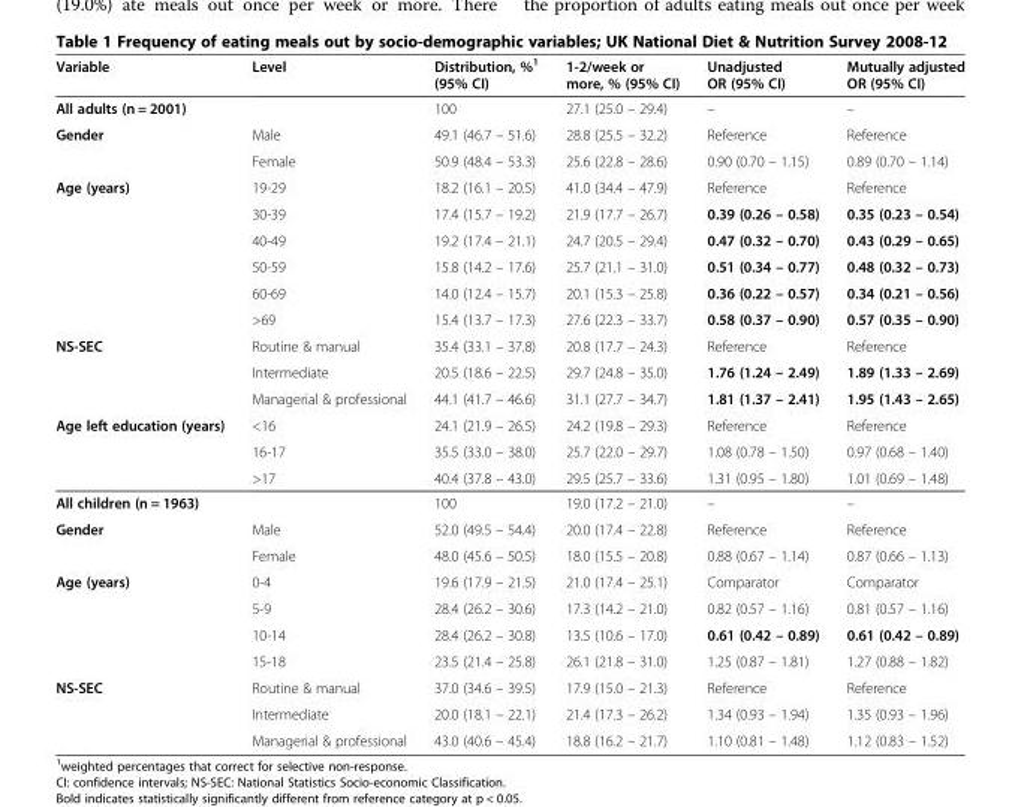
<table><thead><tr><td>Variable</td><td>Level</td><td>Distribution, %<sup>1</sup> (95% CI)</td><td>1-2/week or more, % (95% CI)</td><td>Unadjusted OR (95% CI)</td><td>Mutually adjusted OR (95% CI)</td></tr></thead><tbody><tr><td colspan="2">All adults (n = 2001)</td><td>100</td><td>27.1 (25.0 – 29.4)</td><td>–</td><td>–</td></tr><tr><td rowspan="2">Gender</td><td>Male</td><td>49.1 (46.7 – 51.6)</td><td>28.8 (25.5 – 32.2)</td><td>Reference</td><td>Reference</td></tr><tr><td>Female</td><td>50.9 (48.4 – 53.3)</td><td>25.6 (22.8 – 28.6)</td><td>0.90 (0.70 – 1.15)</td><td>0.89 (0.70 – 1.14)</td></tr><tr><td rowspan="6">Age (years)</td><td>19-29</td><td>18.2 (16.1 – 20.5)</td><td>41.0 (34.4 – 47.9)</td><td>Reference</td><td>Reference</td></tr><tr><td>30-39</td><td>17.4 (15.7 – 19.2)</td><td>21.9 (17.7 – 26.7)</td><td>0.39 (0.26 – 0.58)</td><td>0.35 (0.23 – 0.54)</td></tr><tr><td>40-49</td><td>19.2 (17.4 – 21.1)</td><td>24.7 (20.5 – 29.4)</td><td>0.47 (0.32 – 0.70)</td><td>0.43 (0.29 – 0.65)</td></tr><tr><td>50-59</td><td>15.8 (14.2 – 17.6)</td><td>25.7 (21.1 – 31.0)</td><td>0.51 (0.34 – 0.77)</td><td>0.48 (0.32 – 0.73)</td></tr><tr><td>60-69</td><td>14.0 (12.4 – 15.7)</td><td>20.1 (15.3 – 25.8)</td><td>0.36 (0.22 – 0.57)</td><td>0.34 (0.21 – 0.56)</td></tr><tr><td>&gt;69</td><td>15.4 (13.7 – 17.3)</td><td>27.6 (22.3 – 33.7)</td><td>0.58 (0.37 – 0.90)</td><td>0.57 (0.35 – 0.90)</td></tr><tr><td rowspan="3">NS-SEC</td><td>Routine &amp; manual</td><td>35.4 (33.1 – 37.8)</td><td>20.8 (17.7 – 24.3)</td><td>Reference</td><td>Reference</td></tr><tr><td>Intermediate</td><td>20.5 (18.6 – 22.5)</td><td>29.7 (24.8 – 35.0)</td><td>1.76 (1.24 – 2.49)</td><td>1.89 (1.33 – 2.69)</td></tr><tr><td>Managerial &amp; professional</td><td>44.1 (41.7 – 46.6)</td><td>31.1 (27.7 – 34.7)</td><td>1.81 (1.37 – 2.41)</td><td>1.95 (1.43 – 2.65)</td></tr><tr><td rowspan="3">Age left education (years)</td><td>&lt;16</td><td>24.1 (21.9 – 26.5)</td><td>24.2 (19.8 – 29.3)</td><td>Reference</td><td>Reference</td></tr><tr><td>16-17</td><td>35.5 (33.0 – 38.0)</td><td>25.7 (22.0 – 29.7)</td><td>1.08 (0.78 – 1.50)</td><td>0.97 (0.68 – 1.40)</td></tr><tr><td>&gt;17</td><td>40.4 (37.8 – 43.0)</td><td>29.5 (25.7 – 33.6)</td><td>1.31 (0.95 – 1.80)</td><td>1.01 (0.69 – 1.48)</td></tr><tr><td colspan="2">All children (n = 1963)</td><td>100</td><td>19.0 (17.2 – 21.0)</td><td>–</td><td>–</td></tr><tr><td rowspan="2">Gender</td><td>Male</td><td>52.0 (49.5 – 54.4)</td><td>20.0 (17.4 – 22.8)</td><td>Reference</td><td>Reference</td></tr><tr><td>Female</td><td>48.0 (45.6 – 50.5)</td><td>18.0 (15.5 – 20.8)</td><td>0.88 (0.67 – 1.14)</td><td>0.87 (0.66 – 1.13)</td></tr><tr><td rowspan="4">Age (years)</td><td>0-4</td><td>19.6 (17.9 – 21.5)</td><td>21.0 (17.4 – 25.1)</td><td>Comparator</td><td>Comparator</td></tr><tr><td>5-9</td><td>28.4 (26.2 – 30.6)</td><td>17.3 (14.2 – 21.0)</td><td>0.82 (0.57 – 1.16)</td><td>0.81 (0.57 – 1.16)</td></tr><tr><td>10-14</td><td>28.4 (26.2 – 30.8)</td><td>13.5 (10.6 – 17.0)</td><td>0.61 (0.42 – 0.89)</td><td>0.61 (0.42 – 0.89)</td></tr><tr><td>15-18</td><td>23.5 (21.4 – 25.8)</td><td>26.1 (21.8 – 31.0)</td><td>1.25 (0.87 – 1.81)</td><td>1.27 (0.88 – 1.82)</td></tr><tr><td rowspan="3">NS-SEC</td><td>Routine &amp; manual</td><td>37.0 (34.6 – 39.5)</td><td>17.9 (15.0 – 21.3)</td><td>Reference</td><td>Reference</td></tr><tr><td>Intermediate</td><td>20.0 (18.1 – 22.1)</td><td>21.4 (17.3 – 26.2)</td><td>1.34 (0.93 – 1.94)</td><td>1.35 (0.93 – 1.96)</td></tr><tr><td>Managerial &amp; professional</td><td>43.0 (40.6 – 45.4)</td><td>18.8 (16.2 – 21.7)</td><td>1.10 (0.81 – 1.48)</td><td>1.12 (0.83 – 1.52)</td></tr></tbody></table>